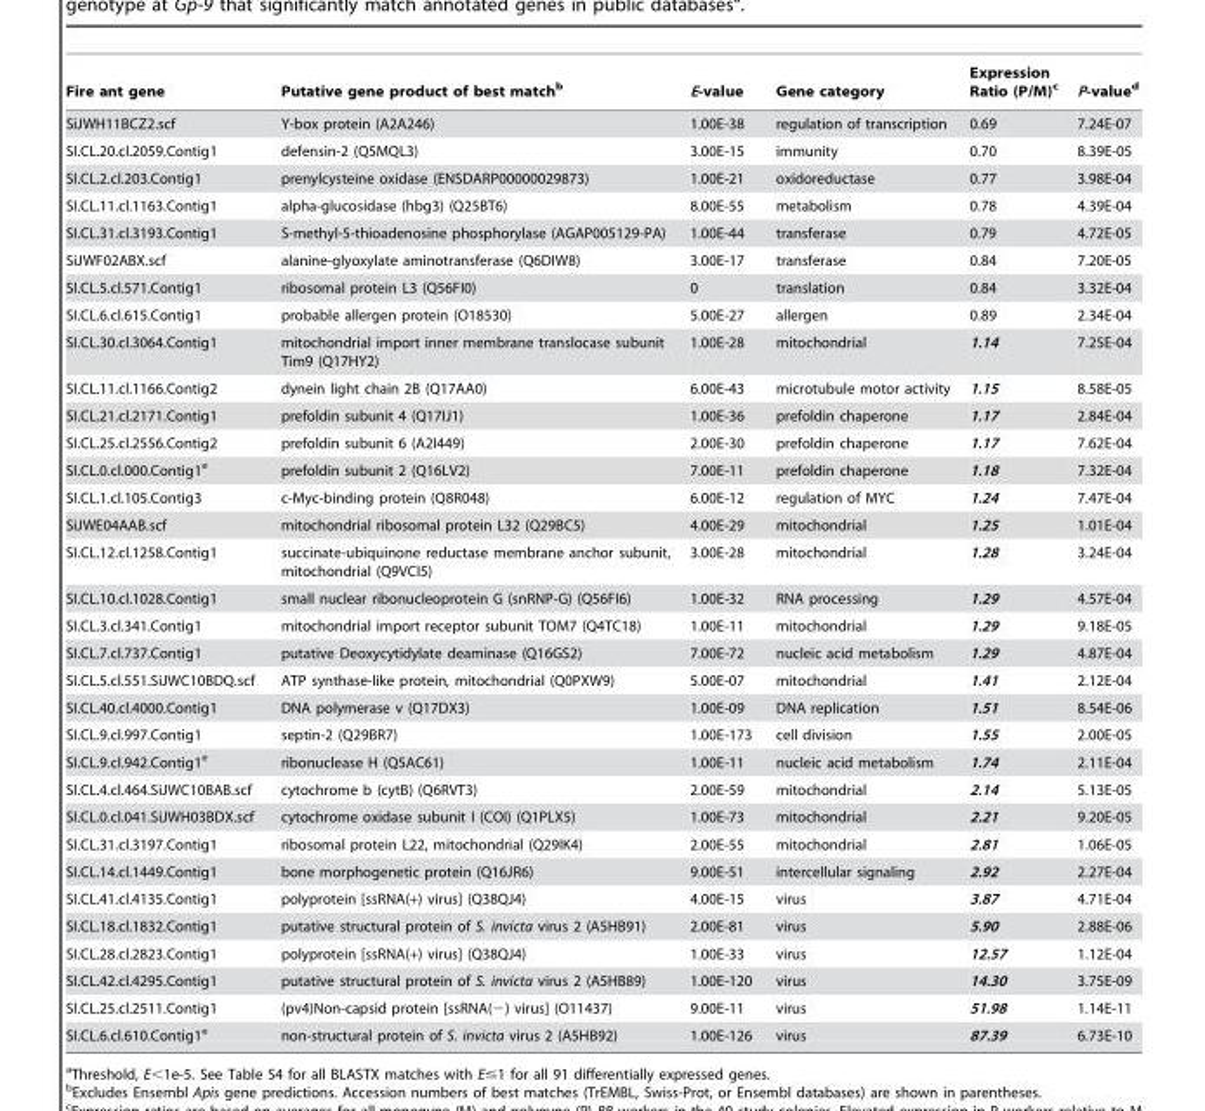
<table><thead><tr><td>Fire ant gene</td><td>Putative gene product of best match<sup>b</sup></td><td>E-value</td><td>Gene category</td><td>Expression Ratio (P/M)<sup>c</sup></td><td>P-value<sup>d</sup></td></tr></thead><tbody><tr><td>SiJWH11BCZ2.scf</td><td>Y-box protein (A2A246)</td><td>1.00E-38</td><td>regulation of transcription</td><td>0.69</td><td>7.24E-07</td></tr><tr><td>SI.CL.20.cl.2059.Contig1</td><td>defensin-2 (Q5MQL3)</td><td>3.00E-15</td><td>immunity</td><td>0.70</td><td>8.39E-05</td></tr><tr><td>SI.CL.2.cl.203.Contig1</td><td>prenylcysteine oxidase (ENSDARP00000029873)</td><td>1.00E-21</td><td>oxidoreductase</td><td>0.77</td><td>3.98E-04</td></tr><tr><td>SI.CL.11.cl.1163.Contig1</td><td>alpha-glucosidase (hbg3) (Q25BT6)</td><td>8.00E-55</td><td>metabolism</td><td>0.78</td><td>4.39E-04</td></tr><tr><td>SI.CL.31.cl.3193.Contig1</td><td>S-methyl-5-thioadenosine phosphorylase (AGAP005129-PA)</td><td>1.00E-44</td><td>transferase</td><td>0.79</td><td>4.72E-05</td></tr><tr><td>SiJWF02ABX.scf</td><td>alanine-glyoxylate aminotransferase (Q6DIW8)</td><td>3.00E-17</td><td>transferase</td><td>0.84</td><td>7.20E-05</td></tr><tr><td>SI.CL.5.cl.571.Contig1</td><td>ribosomal protein L3 (Q56FI0)</td><td>0</td><td>translation</td><td>0.84</td><td>3.32E-04</td></tr><tr><td>SI.CL.6.cl.615.Contig1</td><td>probable allergen protein (O18530)</td><td>5.00E-27</td><td>allergen</td><td>0.89</td><td>2.34E-04</td></tr><tr><td>SI.CL.30.cl.3064.Contig1</td><td>mitochondrial import inner membrane translocase subunit Tim9 (Q17HY2)</td><td>1.00E-28</td><td>mitochondrial</td><td>1.14</td><td>7.25E-04</td></tr><tr><td>SI.CL.11.cl.1166.Contig2</td><td>dynein light chain 2B (Q17AA0)</td><td>6.00E-43</td><td>microtubule motor activity</td><td>1.15</td><td>8.58E-05</td></tr><tr><td>SI.CL.21.cl.2171.Contig1</td><td>prefoldin subunit 4 (Q17IJ1)</td><td>1.00E-36</td><td>prefoldin chaperone</td><td>1.17</td><td>2.84E-04</td></tr><tr><td>SI.CL.25.cl.2556.Contig2</td><td>prefoldin subunit 6 (A2I449)</td><td>2.00E-30</td><td>prefoldin chaperone</td><td>1.17</td><td>7.62E-04</td></tr><tr><td>SI.CL.0.cl.000.Contig1<sup>e</sup></td><td>prefoldin subunit 2 (Q16LV2)</td><td>7.00E-11</td><td>prefoldin chaperone</td><td>1.18</td><td>7.32E-04</td></tr><tr><td>SI.CL.1.cl.105.Contig3</td><td>c-Myc-binding protein (Q8R048)</td><td>6.00E-12</td><td>regulation of MYC</td><td>1.24</td><td>7.47E-04</td></tr><tr><td>SiJWE04AAB.scf</td><td>mitochondrial ribosomal protein L32 (Q29BC5)</td><td>4.00E-29</td><td>mitochondrial</td><td>1.25</td><td>1.01E-04</td></tr><tr><td>SI.CL.12.cl.1258.Contig1</td><td>succinate-ubiquinone reductase membrane anchor subunit, mitochondrial (Q9VCI5)</td><td>3.00E-28</td><td>mitochondrial</td><td>1.28</td><td>3.24E-04</td></tr><tr><td>SI.CL.10.cl.1028.Contig1</td><td>small nuclear ribonucleoprotein G (snRNP-G) (Q56FI6)</td><td>1.00E-32</td><td>RNA processing</td><td>1.29</td><td>4.57E-04</td></tr><tr><td>SI.CL.3.cl.341.Contig1</td><td>mitochondrial import receptor subunit TOM7 (Q4TC18)</td><td>1.00E-11</td><td>mitochondrial</td><td>1.29</td><td>9.18E-05</td></tr><tr><td>SI.CL.7.cl.737.Contig1</td><td>putative Deoxycytidylate deaminase (Q16GS2)</td><td>7.00E-72</td><td>nucleic acid metabolism</td><td>1.29</td><td>4.87E-04</td></tr><tr><td>SI.CL.5.cl.551.SiJWC10BDQ.scf</td><td>ATP synthase-like protein, mitochondrial (Q0PXW9)</td><td>5.00E-07</td><td>mitochondrial</td><td>1.41</td><td>2.12E-04</td></tr><tr><td>SI.CL.40.cl.4000.Contig1</td><td>DNA polymerase v (Q17DX3)</td><td>1.00E-09</td><td>DNA replication</td><td>1.51</td><td>8.54E-06</td></tr><tr><td>SI.CL.9.cl.997.Contig1</td><td>septin-2 (Q29BR7)</td><td>1.00E-173</td><td>cell division</td><td>1.55</td><td>2.00E-05</td></tr><tr><td>SI.CL.9.cl.942.Contig1<sup>e</sup></td><td>ribonuclease H (Q5AC61)</td><td>1.00E-11</td><td>nucleic acid metabolism</td><td>1.74</td><td>2.11E-04</td></tr><tr><td>SI.CL.4.cl.464.SiJWC10BAB.scf</td><td>cytochrome b (cytB) (Q6RVT3)</td><td>2.00E-59</td><td>mitochondrial</td><td>2.14</td><td>5.13E-05</td></tr><tr><td>SI.CL.0.cl.041.SiJWH03BDX.scf</td><td>cytochrome oxidase subunit I (COI) (Q1PLX5)</td><td>1.00E-73</td><td>mitochondrial</td><td>2.21</td><td>9.20E-05</td></tr><tr><td>SI.CL.31.cl.3197.Contig1</td><td>ribosomal protein L22, mitochondrial (Q29IK4)</td><td>2.00E-55</td><td>mitochondrial</td><td>2.81</td><td>1.06E-05</td></tr><tr><td>SI.CL.14.cl.1449.Contig1</td><td>bone morphogenetic protein (Q16JR6)</td><td>9.00E-51</td><td>intercellular signaling</td><td>2.92</td><td>2.27E-04</td></tr><tr><td>SI.CL.41.cl.4135.Contig1</td><td>polyprotein [ssRNA(+) virus] (Q38QJ4)</td><td>4.00E-15</td><td>virus</td><td>3.87</td><td>4.71E-04</td></tr><tr><td>SI.CL.18.cl.1832.Contig1</td><td>putative structural protein of S. invicta virus 2 (A5HB91)</td><td>2.00E-81</td><td>virus</td><td>5.90</td><td>2.88E-06</td></tr><tr><td>SI.CL.28.cl.2823.Contig1</td><td>polyprotein [ssRNA(+) virus] (Q38QJ4)</td><td>1.00E-33</td><td>virus</td><td>12.57</td><td>1.12E-04</td></tr><tr><td>SI.CL.42.cl.4295.Contig1</td><td>putative structural protein of S. invicta virus 2 (A5HB89)</td><td>1.00E-120</td><td>virus</td><td>14.30</td><td>3.75E-09</td></tr><tr><td>SI.CL.25.cl.2511.Contig1</td><td>(pv4)Non-capsid protein [ssRNA(−) virus] (O11437)</td><td>9.00E-11</td><td>virus</td><td>51.98</td><td>1.14E-11</td></tr><tr><td>SI.CL.6.cl.610.Contig1<sup>e</sup></td><td>non-structural protein of S. invicta virus 2 (A5HB92)</td><td>1.00E-126</td><td>virus</td><td>87.39</td><td>6.73E-10</td></tr></tbody></table>